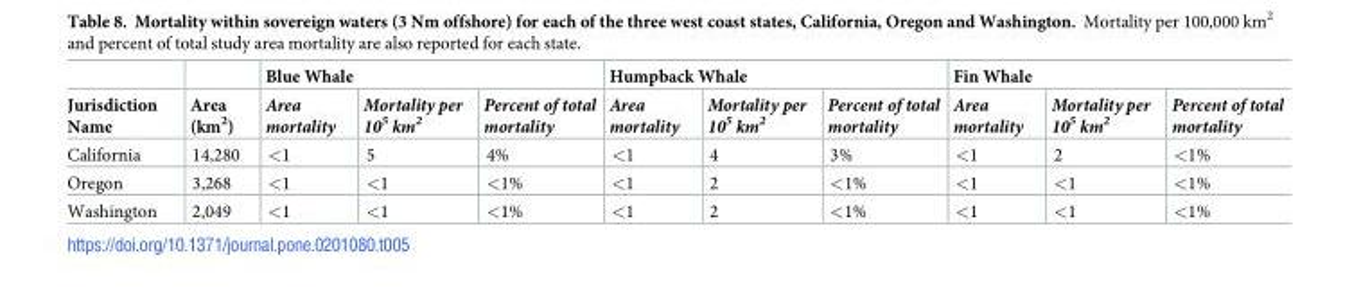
<table><thead><tr><td rowspan="2">Jurisdiction Name</td><td rowspan="2">Area (km<sup>2</sup>)</td><td colspan="3">Blue Whale</td><td colspan="3">Humpback Whale</td><td colspan="3">Fin Whale</td></tr><tr><td>Area mortality</td><td>Mortality per 10<sup>5</sup> km<sup>2</sup></td><td>Percent of total mortality</td><td>Area mortality</td><td>Mortality per 10<sup>5</sup> km<sup>2</sup></td><td>Percent of total mortality</td><td>Area mortality</td><td>Mortality per 10<sup>5</sup> km<sup>2</sup></td><td>Percent of total mortality</td></tr></thead><tbody><tr><td>California</td><td>14,280</td><td>&lt;1</td><td>5</td><td>4%</td><td>&lt;1</td><td>4</td><td>3%</td><td>&lt;1</td><td>2</td><td>&lt;1%</td></tr><tr><td>Oregon</td><td>3,268</td><td>&lt;1</td><td>&lt;1</td><td>&lt;1%</td><td>&lt;1</td><td>2</td><td>&lt;1%</td><td>&lt;1</td><td>&lt;1</td><td>&lt;1%</td></tr><tr><td>Washington</td><td>2,049</td><td>&lt;1</td><td>&lt;1</td><td>&lt;1%</td><td>&lt;1</td><td>2</td><td>&lt;1%</td><td>&lt;1</td><td>&lt;1</td><td>&lt;1%</td></tr></tbody></table>